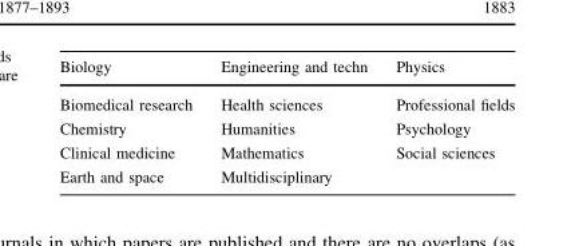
<table><thead><tr><td>Biology</td><td>Engineering and techn</td><td>Physics</td></tr></thead><tbody><tr><td>Biomedical research</td><td>Health sciences</td><td>Professional fields</td></tr><tr><td>Chemistry</td><td>Humanities</td><td>Psychology</td></tr><tr><td>Clinical medicine</td><td>Mathematics</td><td>Social sciences</td></tr><tr><td>Earth and space</td><td>Multidisciplinary</td><td></td></tr></tbody></table>